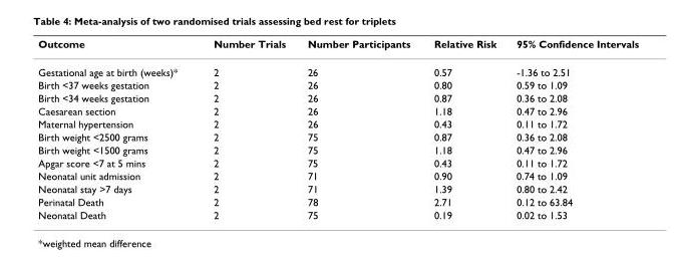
<table><thead><tr><td>Outcome</td><td>Number Trials</td><td>Number Participants</td><td>Relative Risk</td><td>95% Confidence Intervals</td></tr></thead><tbody><tr><td>Gestational age at birth (weeks)*</td><td>2</td><td>26</td><td>0.57</td><td>-1.36 to 2.51</td></tr><tr><td>Birth &lt;37 weeks gestation</td><td>2</td><td>26</td><td>0.80</td><td>0.59 to 1.09</td></tr><tr><td>Birth &lt;34 weeks gestation</td><td>2</td><td>26</td><td>0.87</td><td>0.36 to 2.08</td></tr><tr><td>Caesarean section</td><td>2</td><td>26</td><td>1.18</td><td>0.47 to 2.96</td></tr><tr><td>Maternal hypertension</td><td>2</td><td>26</td><td>0.43</td><td>0.11 to 1.72</td></tr><tr><td>Birth weight &lt;2500 grams</td><td>2</td><td>75</td><td>0.87</td><td>0.36 to 2.08</td></tr><tr><td>Birth weight &lt;1500 grams</td><td>2</td><td>75</td><td>1.18</td><td>0.47 to 2.96</td></tr><tr><td>Apgar score &lt;7 at 5 mins</td><td>2</td><td>75</td><td>0.43</td><td>0.11 to 1.72</td></tr><tr><td>Neonatal unit admission</td><td>2</td><td>71</td><td>0.90</td><td>0.74 to 1.09</td></tr><tr><td>Neonatal stay &gt;7 days</td><td>2</td><td>71</td><td>1.39</td><td>0.80 to 2.42</td></tr><tr><td>Perinatal Death</td><td>2</td><td>78</td><td>2.71</td><td>0.12 to 63.84</td></tr><tr><td>Neonatal Death</td><td>2</td><td>75</td><td>0.19</td><td>0.02 to 1.53</td></tr></tbody></table>